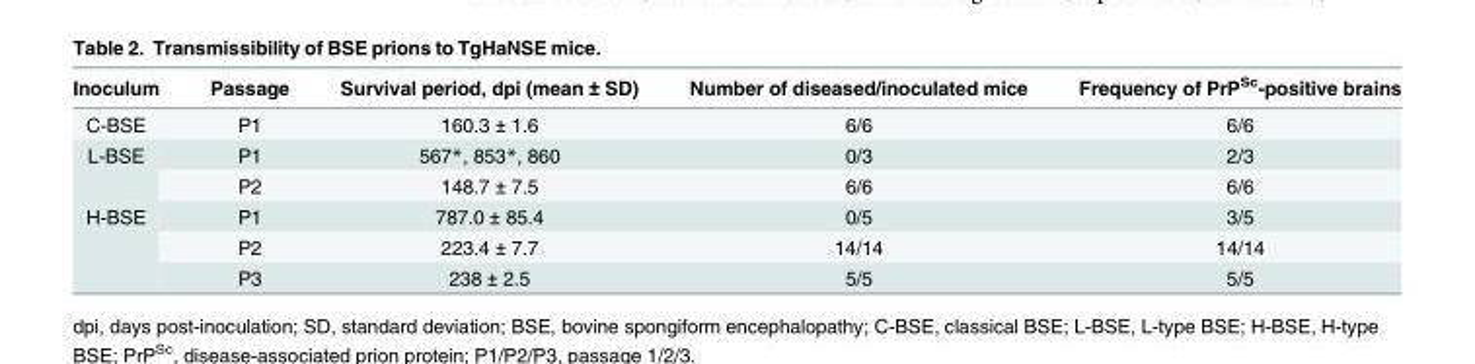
<table><thead><tr><td>Inoculum</td><td>Passage</td><td>Survival period, dpi (mean ± SD)</td><td>Number of diseased/inoculated mice</td><td>Frequency of PrP<sup>Sc</sup>-positive brains</td></tr></thead><tbody><tr><td>C-BSE</td><td>P1</td><td>160.3 ± 1.6</td><td>6/6</td><td>6/6</td></tr><tr><td rowspan="2">L-BSE</td><td>P1</td><td>567*, 853*, 860</td><td>0/3</td><td>2/3</td></tr><tr><td>P2</td><td>148.7 ± 7.5</td><td>6/6</td><td>6/6</td></tr><tr><td rowspan="3">H-BSE</td><td>P1</td><td>787.0 ± 85.4</td><td>0/5</td><td>3/5</td></tr><tr><td>P2</td><td>223.4 ± 7.7</td><td>14/14</td><td>14/14</td></tr><tr><td>P3</td><td>238 ± 2.5</td><td>5/5</td><td>5/5</td></tr></tbody></table>